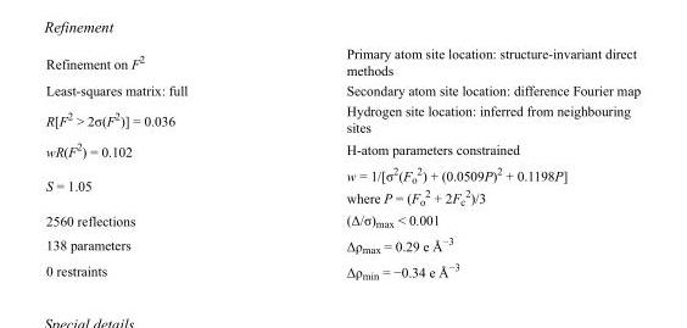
<table><tbody><tr><td>Refinement on F<sup>2</sup></td><td>Primary atom site location: structure-invariant direct methods</td></tr><tr><td>Least-squares matrix: full</td><td>Secondary atom site location: difference Fourier map</td></tr><tr><td>R[F<sup>2</sup> &gt; 2σ(F<sup>2</sup>)] = 0.036</td><td>Hydrogen site location: inferred from neighbouring sites</td></tr><tr><td>wR(F<sup>2</sup>) = 0.102</td><td>H-atom parameters constrained</td></tr><tr><td>S = 1.05</td><td>w = 1/[σ<sup>2</sup>(F<sub>o</sub> <sup>2</sup>) + (0.0509P)<sup>2</sup> + 0.1198P] where P = (F<sub>o</sub> <sup>2</sup> + 2F<sub>c</sub> <sup>2</sup>)/3</td></tr><tr><td>2560 reflections</td><td>(Δ/σ)<sub>max</sub> &lt; 0.001</td></tr><tr><td>138 parameters</td><td>Δρ<sub>max</sub> = 0.29 e Å<sup>−3</sup></td></tr><tr><td>0 restraints</td><td>Δρ<sub>min</sub> = −0.34 e Å<sup>−3</sup></td></tr></tbody></table>